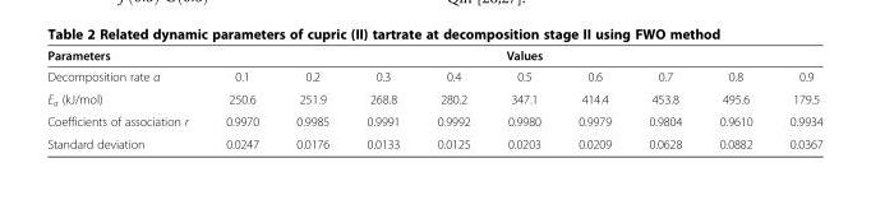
<table><thead><tr><td rowspan="2">Parameters Decomposition rate α</td><td colspan="9">Values</td></tr><tr><td>0.1</td><td>0.2</td><td>0.3</td><td>0.4</td><td>0.5</td><td>0.6</td><td>0.7</td><td>0.8</td><td>0.9</td></tr></thead><tbody><tr><td>E<sub>a</sub> (kJ/mol)</td><td>250.6</td><td>251.9</td><td>268.8</td><td>280.2</td><td>347.1</td><td>414.4</td><td>453.8</td><td>495.6</td><td>179.5</td></tr><tr><td>Coefficients of association r</td><td>0.9970</td><td>0.9985</td><td>0.9991</td><td>0.9992</td><td>0.9980</td><td>0.9979</td><td>0.9804</td><td>0.9610</td><td>0.9934</td></tr><tr><td>Standard deviation</td><td>0.0247</td><td>0.0176</td><td>0.0133</td><td>0.0125</td><td>0.0203</td><td>0.0209</td><td>0.0628</td><td>0.0882</td><td>0.0367</td></tr></tbody></table>